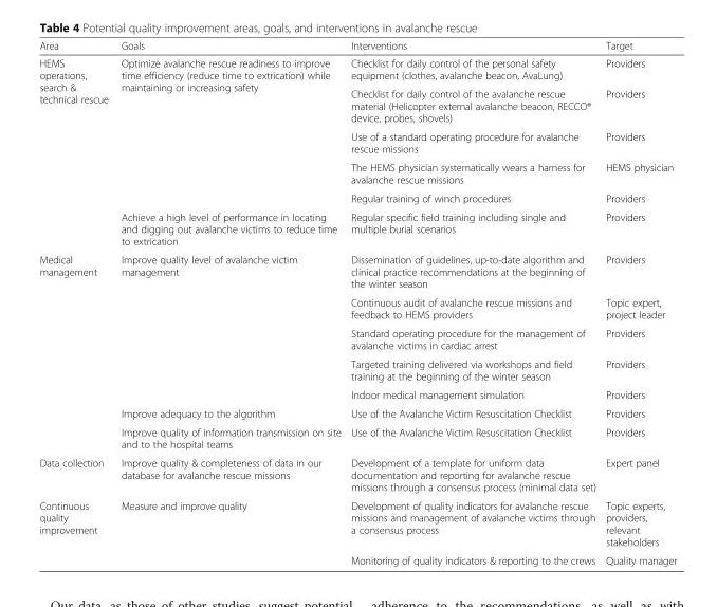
<table><thead><tr><td>Area</td><td>Goals</td><td>Interventions</td><td>Target</td></tr></thead><tbody><tr><td rowspan="6">HEMS operations, search &amp; technical rescue</td><td rowspan="5">Optimize avalanche rescue readiness to improve time efficiency (reduce time to extrication) while maintaining or increasing safety</td><td>Checklist for daily control of the personal safety equipment (clothes, avalanche beacon, AvaLung)</td><td>Providers</td></tr><tr><td>Checklist for daily control of the avalanche rescue material (Helicopter external avalanche beacon, RECCO® device, probes, shovels)</td><td>Providers</td></tr><tr><td>Use of a standard operating procedure for avalanche rescue missions</td><td>Providers</td></tr><tr><td>The HEMS physician systematically wears a harness for avalanche rescue missions</td><td>HEMS physician</td></tr><tr><td>Regular training of winch procedures</td><td>Providers</td></tr><tr><td>Achieve a high level of performance in locating and digging out avalanche victims to reduce time to extrication</td><td>Regular specific field training including single and multiple burial scenarios</td><td>Providers</td></tr><tr><td rowspan="7">Medical management</td><td rowspan="5">Improve quality level of avalanche victim management</td><td>Dissemination of guidelines, up-to-date algorithm and clinical practice recommendations at the beginning of the winter season</td><td>Providers</td></tr><tr><td>Continuous audit of avalanche rescue missions and feedback to HEMS providers</td><td>Topic expert, project leader</td></tr><tr><td>Standard operating procedure for the management of avalanche victims in cardiac arrest</td><td>Providers</td></tr><tr><td>Targeted training delivered via workshops and field training at the beginning of the winter season</td><td>Providers</td></tr><tr><td>Indoor medical management simulation</td><td>Providers</td></tr><tr><td>Improve adequacy to the algorithm</td><td>Use of the Avalanche Victim Resuscitation Checklist</td><td>Providers</td></tr><tr><td>Improve quality of information transmission on site and to the hospital teams</td><td>Use of the Avalanche Victim Resuscitation Checklist</td><td>Providers</td></tr><tr><td>Data collection</td><td>Improve quality &amp; completeness of data in our database for avalanche rescue missions</td><td>Development of a template for uniform data documentation and reporting for avalanche rescue missions through a consensus process (minimal data set)</td><td>Expert panel</td></tr><tr><td rowspan="2">Continuous quality improvement</td><td rowspan="2">Measure and improve quality</td><td>Development of quality indicators for avalanche rescue missions and management of avalanche victims through a consensus process</td><td>Topic experts, providers, relevant stakeholders</td></tr><tr><td>Monitoring of quality indicators &amp; reporting to the crews</td><td>Quality manager</td></tr></tbody></table>